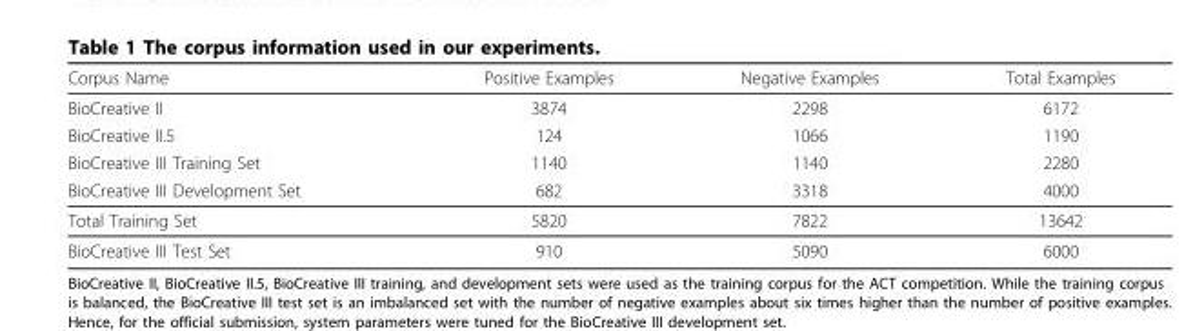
<table><thead><tr><td>Corpus Name</td><td>Positive Examples</td><td>Negative Examples</td><td>Total Examples</td></tr></thead><tbody><tr><td>BioCreative II</td><td>3874</td><td>2298</td><td>6172</td></tr><tr><td>BioCreative II.5</td><td>124</td><td>1066</td><td>1190</td></tr><tr><td>BioCreative III Training Set</td><td>1140</td><td>1140</td><td>2280</td></tr><tr><td>BioCreative III Development Set</td><td>682</td><td>3318</td><td>4000</td></tr><tr><td>Total Training Set</td><td>5820</td><td>7822</td><td>13642</td></tr><tr><td>BioCreative III Test Set</td><td>910</td><td>5090</td><td>6000</td></tr></tbody></table>